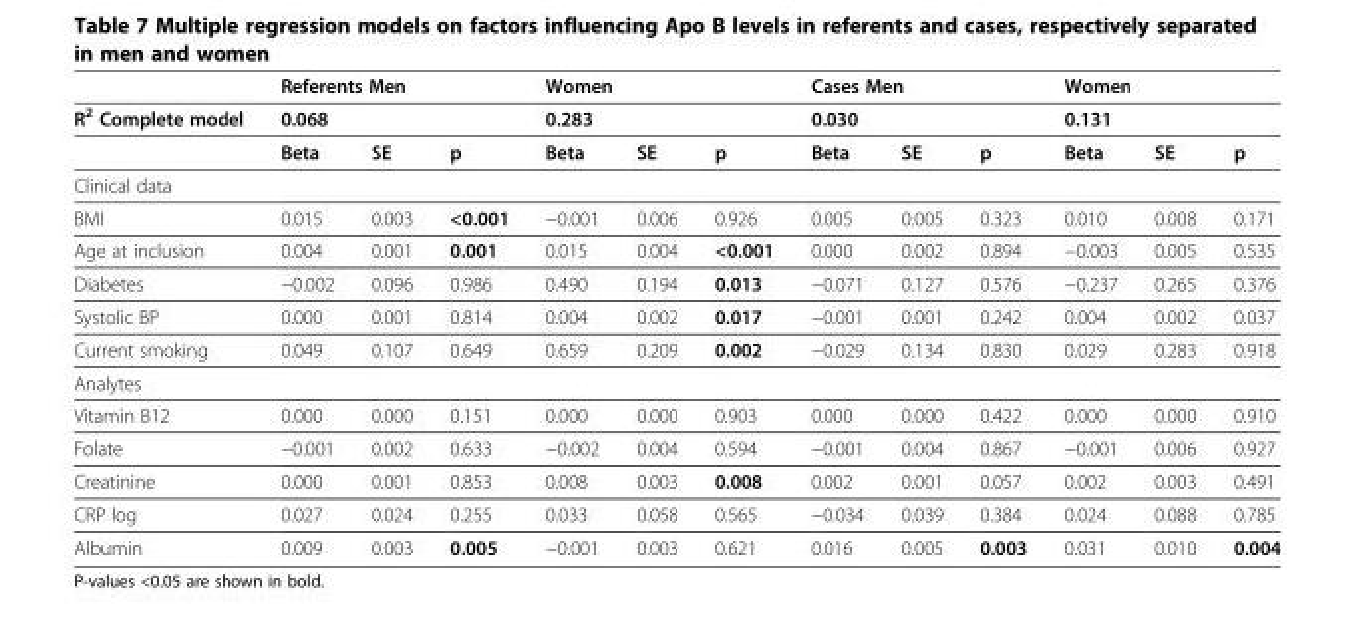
<table><thead><tr><td rowspan="3">R<sup>2</sup> Complete model</td><td rowspan="2" colspan="3">Referents Men 0.068</td><td rowspan="2" colspan="3">Women 0.283</td><td rowspan="2" colspan="3">Cases Men 0.030</td><td rowspan="2" colspan="3">Women 0.131</td></tr><tr></tr><tr><td>Beta</td><td>SE</td><td>p</td><td>Beta</td><td>SE</td><td>p</td><td>Beta</td><td>SE</td><td>p</td><td>Beta</td><td>SE</td><td>p</td></tr></thead><tbody><tr><td colspan="13">Clinical data</td></tr><tr><td>BMI</td><td>0.015</td><td>0.003</td><td>&lt;0.001</td><td>−0.001</td><td>0.006</td><td>0.926</td><td>0.005</td><td>0.005</td><td>0.323</td><td>0.010</td><td>0.008</td><td>0.171</td></tr><tr><td>Age at inclusion</td><td>0.004</td><td>0.001</td><td>0.001</td><td>0.015</td><td>0.004</td><td>&lt;0.001</td><td>0.000</td><td>0.002</td><td>0.894</td><td>−0.003</td><td>0.005</td><td>0.535</td></tr><tr><td>Diabetes</td><td>−0.002</td><td>0.096</td><td>0.986</td><td>0.490</td><td>0.194</td><td>0.013</td><td>−0.071</td><td>0.127</td><td>0.576</td><td>−0.237</td><td>0.265</td><td>0.376</td></tr><tr><td>Systolic BP</td><td>0.000</td><td>0.001</td><td>0.814</td><td>0.004</td><td>0.002</td><td>0.017</td><td>−0.001</td><td>0.001</td><td>0.242</td><td>0.004</td><td>0.002</td><td>0.037</td></tr><tr><td>Current smoking</td><td>0.049</td><td>0.107</td><td>0.649</td><td>0.659</td><td>0.209</td><td>0.002</td><td>−0.029</td><td>0.134</td><td>0.830</td><td>0.029</td><td>0.283</td><td>0.918</td></tr><tr><td colspan="13">Analytes</td></tr><tr><td>Vitamin B12</td><td>0.000</td><td>0.000</td><td>0.151</td><td>0.000</td><td>0.000</td><td>0.903</td><td>0.000</td><td>0.000</td><td>0.422</td><td>0.000</td><td>0.000</td><td>0.910</td></tr><tr><td>Folate</td><td>−0.001</td><td>0.002</td><td>0.633</td><td>−0.002</td><td>0.004</td><td>0.594</td><td>−0.001</td><td>0.004</td><td>0.867</td><td>−0.001</td><td>0.006</td><td>0.927</td></tr><tr><td>Creatinine</td><td>0.000</td><td>0.001</td><td>0.853</td><td>0.008</td><td>0.003</td><td>0.008</td><td>0.002</td><td>0.001</td><td>0.057</td><td>0.002</td><td>0.003</td><td>0.491</td></tr><tr><td>CRP log</td><td>0.027</td><td>0.024</td><td>0.255</td><td>0.033</td><td>0.058</td><td>0.565</td><td>−0.034</td><td>0.039</td><td>0.384</td><td>0.024</td><td>0.088</td><td>0.785</td></tr><tr><td>Albumin</td><td>0.009</td><td>0.003</td><td>0.005</td><td>−0.001</td><td>0.003</td><td>0.621</td><td>0.016</td><td>0.005</td><td>0.003</td><td>0.031</td><td>0.010</td><td>0.004</td></tr></tbody></table>